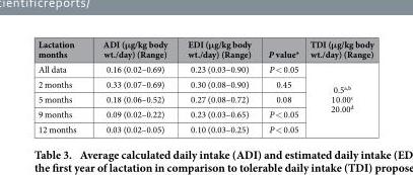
<table><thead><tr><td>Lactation months</td><td>ADI (μg/kg body wt./day) (Range)</td><td>EDI (μg/kg body wt./day) (Range)</td><td>P value*</td><td>TDI (μg/kg body wt./day) (Range)</td></tr></thead><tbody><tr><td>All data</td><td>0.16 (0.02–0.69)</td><td>0.23 (0.03–0.90)</td><td>P &lt; 0.05</td><td rowspan="5">0.5<sup>a,b</sup> 10.00<sup>c</sup> 20.00<sup>d</sup></td></tr><tr><td>2 months</td><td>0.33 (0.07–0.69)</td><td>0.30 (0.08–0.90)</td><td>0.45</td></tr><tr><td>5 months</td><td>0.18 (0.06–0.52)</td><td>0.27 (0.08–0.72)</td><td>0.08</td></tr><tr><td>9 months</td><td>0.09 (0.02–0.22)</td><td>0.23 (0.03–0.65)</td><td>P &lt; 0.05</td></tr><tr><td>12 months</td><td>0.03 (0.02–0.05)</td><td>0.10 (0.03–0.25)</td><td>P &lt; 0.05</td></tr></tbody></table>